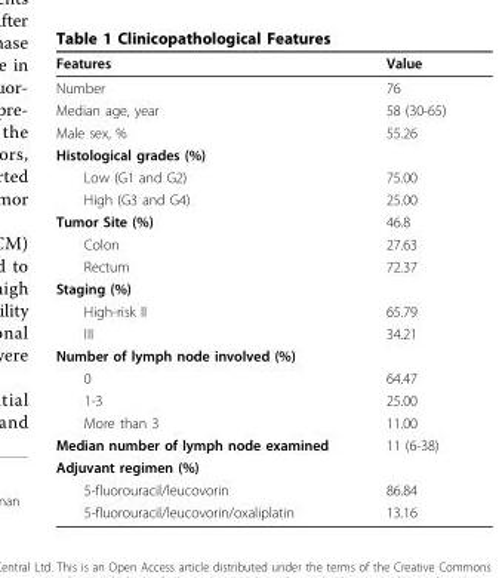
<table><thead><tr><td>Features</td><td>Value</td></tr></thead><tbody><tr><td>Number</td><td>76</td></tr><tr><td>Median age, year</td><td>58 (30-65)</td></tr><tr><td>Male sex, %</td><td>55.26</td></tr><tr><td colspan="2">Histological grades (%)</td></tr><tr><td>Low (G1 and G2)</td><td>75.00</td></tr><tr><td>High (G3 and G4)</td><td>25.00</td></tr><tr><td>Tumor Site (%)</td><td>46.8</td></tr><tr><td>Colon</td><td>27.63</td></tr><tr><td>Rectum</td><td>72.37</td></tr><tr><td colspan="2">Staging (%)</td></tr><tr><td>High-risk II</td><td>65.79</td></tr><tr><td>III</td><td>34.21</td></tr><tr><td colspan="2">Number of lymph node involved (%)</td></tr><tr><td>0</td><td>64.47</td></tr><tr><td>1-3</td><td>25.00</td></tr><tr><td>More than 3</td><td>11.00</td></tr><tr><td>Median number of lymph node examined</td><td>11 (6-38)</td></tr><tr><td colspan="2">Adjuvant regimen (%)</td></tr><tr><td>5-fluorouracil/leucovorin</td><td>86.84</td></tr><tr><td>5-fluorouracil/leucovorin/oxaliplatin</td><td>13.16</td></tr></tbody></table>